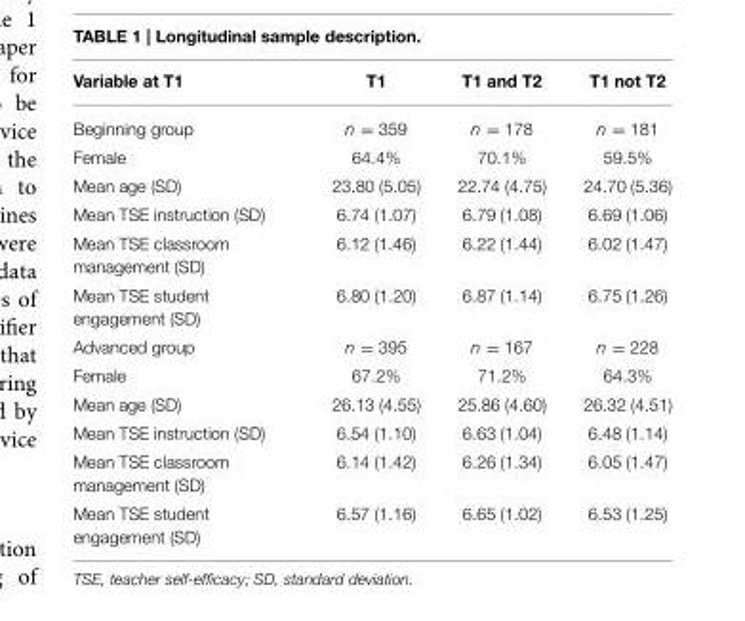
<table><thead><tr><td>Variable at T1</td><td>T1</td><td>T1 and T2</td><td>T1 not T2</td></tr></thead><tbody><tr><td>Beginning group</td><td>n = 359</td><td>n = 178</td><td>n = 181</td></tr><tr><td>Female</td><td>64.4%</td><td>70.1%</td><td>59.5%</td></tr><tr><td>Mean age (SD)</td><td>23.80 (5.05)</td><td>22.74 (4.75)</td><td>24.70 (5.36)</td></tr><tr><td>Mean TSE instruction (SD)</td><td>6.74 (1.07)</td><td>6.79 (1.08)</td><td>6.69 (1.06)</td></tr><tr><td>Mean TSE classroom management (SD)</td><td>6.12 (1.46)</td><td>6.22 (1.44)</td><td>6.02 (1.47)</td></tr><tr><td>Mean TSE student engagement (SD)</td><td>6.80 (1.20)</td><td>6.87 (1.14)</td><td>6.75 (1.26)</td></tr><tr><td>Advanced group</td><td>n = 395</td><td>n = 167</td><td>n = 228</td></tr><tr><td>Female</td><td>67.2%</td><td>71.2%</td><td>64.3%</td></tr><tr><td>Mean age (SD)</td><td>26.13 (4.55)</td><td>25.86 (4.60)</td><td>26.32 (4.51)</td></tr><tr><td>Mean TSE instruction (SD)</td><td>6.54 (1.10)</td><td>6.63 (1.04)</td><td>6.48 (1.14)</td></tr><tr><td>Mean TSE classroom management (SD)</td><td>6.14 (1.42)</td><td>6.26 (1.34)</td><td>6.05 (1.47)</td></tr><tr><td>Mean TSE student engagement (SD)</td><td>6.57 (1.16)</td><td>6.65 (1.02)</td><td>6.53 (1.25)</td></tr></tbody></table>